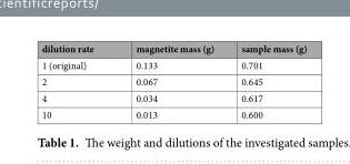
<table><thead><tr><td>dilution rate</td><td>magnetite mass (g)</td><td>sample mass (g)</td></tr></thead><tbody><tr><td>1 (original)</td><td>0.133</td><td>0.701</td></tr><tr><td>2</td><td>0.067</td><td>0.645</td></tr><tr><td>4</td><td>0.034</td><td>0.617</td></tr><tr><td>10</td><td>0.013</td><td>0.600</td></tr></tbody></table>